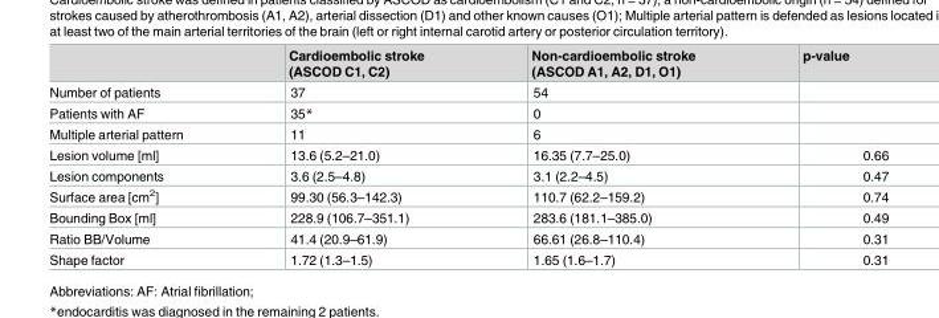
<table><thead><tr><td></td><td>Cardioembolic stroke (ASCOD C1, C2)</td><td>Non-cardioembolic stroke (ASCOD A1, A2, D1, O1)</td><td>p-value</td></tr></thead><tbody><tr><td>Number of patients</td><td>37</td><td>54</td><td></td></tr><tr><td>Patients with AF</td><td>35*</td><td>0</td><td></td></tr><tr><td>Multiple arterial pattern</td><td>11</td><td>6</td><td></td></tr><tr><td>Lesion volume [ml]</td><td>13.6 (5.2–21.0)</td><td>16.35 (7.7–25.0)</td><td>0.66</td></tr><tr><td>Lesion components</td><td>3.6 (2.5–4.8)</td><td>3.1 (2.2–4.5)</td><td>0.47</td></tr><tr><td>Surface area [cm<sup>2</sup>]</td><td>99.30 (56.3–142.3)</td><td>110.7 (62.2–159.2)</td><td>0.74</td></tr><tr><td>Bounding Box [ml]</td><td>228.9 (106.7–351.1)</td><td>283.6 (181.1–385.0)</td><td>0.49</td></tr><tr><td>Ratio BB/Volume</td><td>41.4 (20.9–61.9)</td><td>66.61 (26.8–110.4)</td><td>0.31</td></tr><tr><td>Shape factor</td><td>1.72 (1.3–1.5)</td><td>1.65 (1.6–1.7)</td><td>0.31</td></tr></tbody></table>